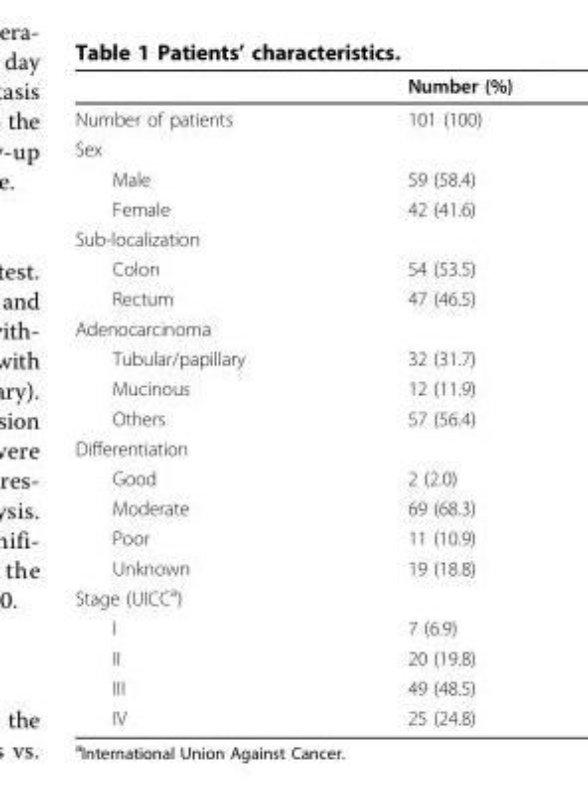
<table><thead><tr><td></td><td>Number (%)</td></tr></thead><tbody><tr><td>Number of patients</td><td>101 (100)</td></tr><tr><td colspan="2">Sex</td></tr><tr><td>Male</td><td>59 (58.4)</td></tr><tr><td>Female</td><td>42 (41.6)</td></tr><tr><td colspan="2">Sub-localization</td></tr><tr><td>Colon</td><td>54 (53.5)</td></tr><tr><td>Rectum</td><td>47 (46.5)</td></tr><tr><td colspan="2">Adenocarcinoma</td></tr><tr><td>Tubular/papillary</td><td>32 (31.7)</td></tr><tr><td>Mucinous</td><td>12 (11.9)</td></tr><tr><td>Others</td><td>57 (56.4)</td></tr><tr><td colspan="2">Differentiation</td></tr><tr><td>Good</td><td>2 (2.0)</td></tr><tr><td>Moderate</td><td>69 (68.3)</td></tr><tr><td>Poor</td><td>11 (10.9)</td></tr><tr><td>Unknown</td><td>19 (18.8)</td></tr><tr><td colspan="2">Stage (UICC<sup>a</sup>)</td></tr><tr><td>I</td><td>7 (6.9)</td></tr><tr><td>II</td><td>20 (19.8)</td></tr><tr><td>III</td><td>49 (48.5)</td></tr><tr><td>IV</td><td>25 (24.8)</td></tr></tbody></table>